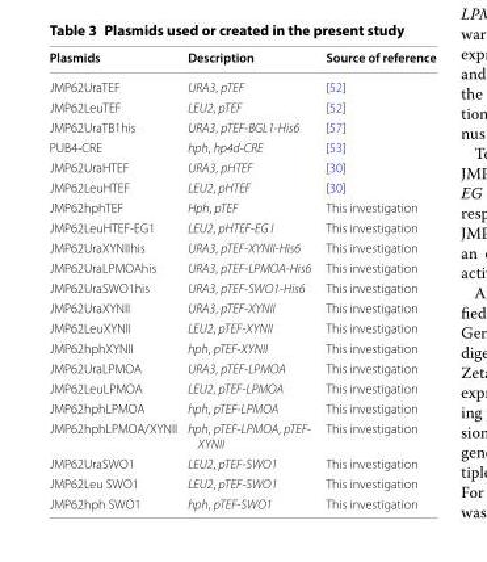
<table><thead><tr><td>Plasmids</td><td>Description</td><td>Source of reference</td></tr></thead><tbody><tr><td>JMP62UraTEF</td><td>URA3, pTEF</td><td>[52]</td></tr><tr><td>JMP62LeuTEF</td><td>LEU2, pTEF</td><td>[52]</td></tr><tr><td>JMP62UraTB1his</td><td>URA3, pTEF‑BGL1‑His6</td><td>[57]</td></tr><tr><td>PUB4‑CRE</td><td>hph, hp4d‑CRE</td><td>[53]</td></tr><tr><td>JMP62UraHTEF</td><td>URA3, pHTEF</td><td>[30]</td></tr><tr><td>JMP62LeuHTEF</td><td>LEU2, pHTEF</td><td>[30]</td></tr><tr><td>JMP62hphTEF</td><td>Hph, pTEF</td><td>This investigation</td></tr><tr><td>JMP62LeuHTEF‑EG1</td><td>LEU2, pHTEF‑EG I</td><td>This investigation</td></tr><tr><td>JMP62UraXYNIIhis</td><td>URA3, pTEF‑XYNII‑His6</td><td>This investigation</td></tr><tr><td>JMP62UraLPMOAhis</td><td>URA3, pTEF‑LPMOA‑His6</td><td>This investigation</td></tr><tr><td>JMP62UraSWO1his</td><td>URA3, pTEF‑SWO1‑His6</td><td>This investigation</td></tr><tr><td>JMP62UraXYNII</td><td>URA3, pTEF‑XYNII</td><td>This investigation</td></tr><tr><td>JMP62LeuXYNII</td><td>LEU2, pTEF‑XYNII</td><td>This investigation</td></tr><tr><td>JMP62hphXYNII</td><td>hph, pTEF‑XYNII</td><td>This investigation</td></tr><tr><td>JMP62UraLPMOA</td><td>URA3, pTEF‑LPMOA</td><td>This investigation</td></tr><tr><td>JMP62LeuLPMOA</td><td>LEU2, pTEF‑LPMOA</td><td>This investigation</td></tr><tr><td>JMP62hphLPMOA</td><td>hph, pTEF‑LPMOA</td><td>This investigation</td></tr><tr><td>JMP62hphLPMOA/XYNII</td><td>hph, pTEF‑LPMOA, pTEF‑ XYNII</td><td>This investigation</td></tr><tr><td>JMP62UraSWO1</td><td>LEU2, pTEF‑SWO1</td><td>This investigation</td></tr><tr><td>JMP62Leu SWO1</td><td>LEU2, pTEF‑SWO1</td><td>This investigation</td></tr><tr><td>JMP62hph SWO1</td><td>hph, pTEF‑SWO1</td><td>This investigation</td></tr></tbody></table>